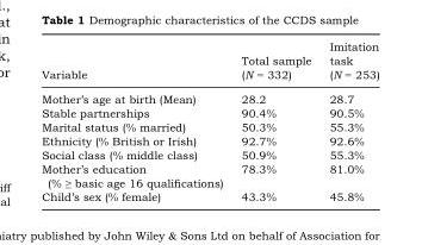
<table><thead><tr><td>Variable</td><td>Total sample (N = 332)</td><td>Imitation task (N = 253)</td></tr></thead><tbody><tr><td>Mother’s age at birth (Mean)</td><td>28.2</td><td>28.7</td></tr><tr><td>Stable partnerships</td><td>90.4%</td><td>90.5%</td></tr><tr><td>Marital status (% married)</td><td>50.3%</td><td>55.3%</td></tr><tr><td>Ethnicity (% British or Irish)</td><td>92.7%</td><td>92.6%</td></tr><tr><td>Social class (% middle class)</td><td>50.9%</td><td>55.3%</td></tr><tr><td>Mother’s education (% ≥ basic age 16 qualifications)</td><td>78.3%</td><td>81.0%</td></tr><tr><td>Child’s sex (% female)</td><td>43.3%</td><td>45.8%</td></tr></tbody></table>